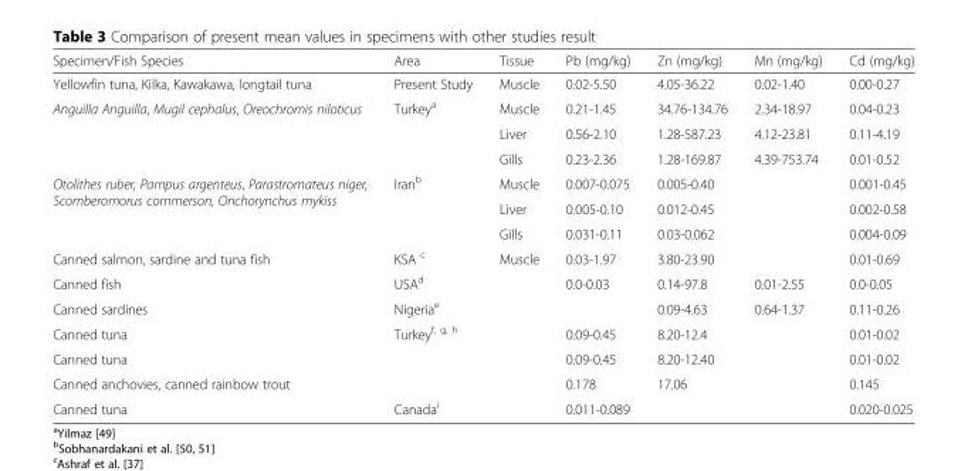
<table><thead><tr><td>Specimen/Fish Species</td><td>Area</td><td>Tissue</td><td>Pb (mg/kg)</td><td>Zn (mg/kg)</td><td>Mn (mg/kg)</td><td>Cd (mg/kg)</td></tr></thead><tbody><tr><td>Yellowfin tuna, Kilka, Kawakawa, longtail tuna</td><td>Present Study</td><td>Muscle</td><td>0.02-5.50</td><td>4.05-36.22</td><td>0.02-1.40</td><td>0.00-0.27</td></tr><tr><td rowspan="3">Anguilla Anguilla, Mugil cephalus, Oreochromis niloticus</td><td rowspan="3">Turkey<sup>a</sup></td><td>Muscle</td><td>0.21-1.45</td><td>34.76-134.76</td><td>2.34-18.97</td><td>0.04-0.23</td></tr><tr><td>Liver</td><td>0.56-2.10</td><td>1.28-587.23</td><td>4.12-23.81</td><td>0.11-4.19</td></tr><tr><td>Gills</td><td>0.23-2.36</td><td>1.28-169.87</td><td>4.39-753.74</td><td>0.01-0.52</td></tr><tr><td rowspan="3">Otolithes ruber, Pampus argenteus, Parastromateus niger, Scomberomorus commerson, Onchorynchus mykiss</td><td rowspan="3">Iran<sup>b</sup></td><td>Muscle</td><td>0.007-0.075</td><td>0.005-0.40</td><td></td><td>0.001-0.45</td></tr><tr><td>Liver</td><td>0.005-0.10</td><td>0.012-0.45</td><td></td><td>0.002-0.58</td></tr><tr><td>Gills</td><td>0.031-0.11</td><td>0.03-0.062</td><td></td><td>0.004-0.09</td></tr><tr><td>Canned salmon, sardine and tuna fish</td><td>KSA <sup>c</sup></td><td rowspan="7">Muscle</td><td>0.03-1.97</td><td>3.80-23.90</td><td></td><td>0.01-0.69</td></tr><tr><td>Canned fish</td><td>USA<sup>d</sup></td><td>0.0-0.03</td><td>0.14-97.8</td><td>0.01-2.55</td><td>0.0-0.05</td></tr><tr><td>Canned sardines</td><td>Nigeria<sup>e</sup></td><td></td><td>0.09-4.63</td><td>0.64-1.37</td><td>0.11-0.26</td></tr><tr><td>Canned tuna</td><td rowspan="3">Turkey<sup>f, g, h</sup></td><td>0.09-0.45</td><td>8.20-12.4</td><td></td><td>0.01-0.02</td></tr><tr><td>Canned tuna</td><td>0.09-0.45</td><td>8.20-12.40</td><td></td><td>0.01-0.02</td></tr><tr><td>Canned anchovies, canned rainbow trout</td><td>0.178</td><td>17.06</td><td></td><td>0.145</td></tr><tr><td>Canned tuna</td><td>Canada<sup>i</sup></td><td>0.011-0.089</td><td></td><td></td><td>0.020-0.025</td></tr></tbody></table>